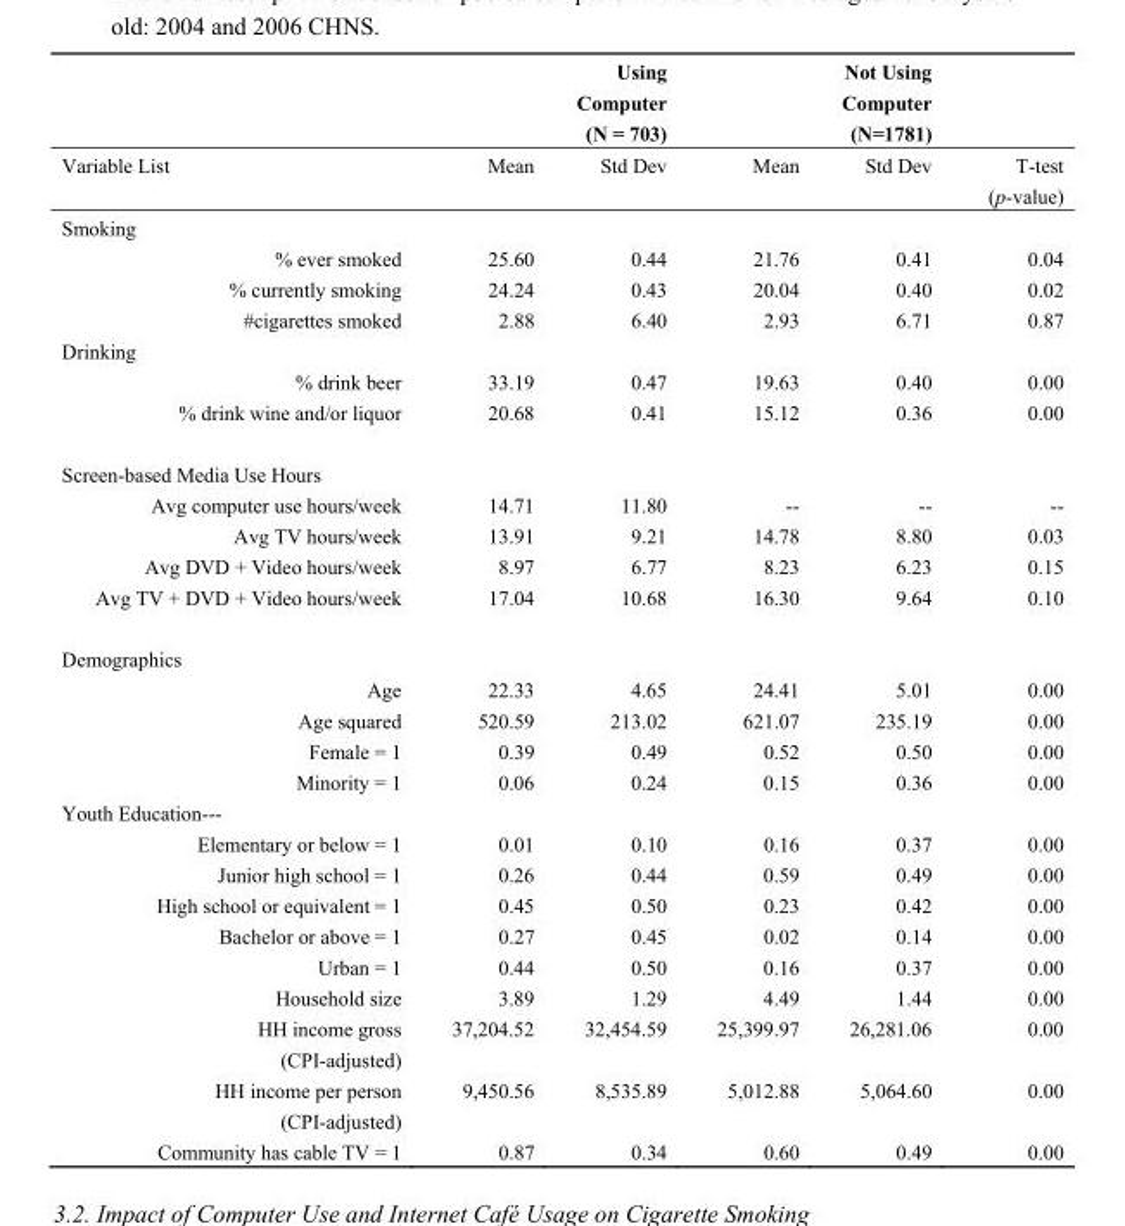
<table><thead><tr><td></td><td></td><td>Using Computer (N = 703)</td><td></td><td>Not Using Computer (N=1781)</td><td></td></tr></thead><tbody><tr><td>Variable List</td><td>Mean</td><td>Std Dev</td><td>Mean</td><td>Std Dev</td><td>T-test (p-value)</td></tr><tr><td colspan="6">Smoking</td></tr><tr><td>% ever smoked</td><td>25.60</td><td>0.44</td><td>21.76</td><td>0.41</td><td>0.04</td></tr><tr><td>% currently smoking</td><td>24.24</td><td>0.43</td><td>20.04</td><td>0.40</td><td>0.02</td></tr><tr><td>#cigarettes smoked</td><td>2.88</td><td>6.40</td><td>2.93</td><td>6.71</td><td>0.87</td></tr><tr><td colspan="6">Drinking</td></tr><tr><td>% drink beer</td><td>33.19</td><td>0.47</td><td>19.63</td><td>0.40</td><td>0.00</td></tr><tr><td>% drink wine and/or liquor</td><td>20.68</td><td>0.41</td><td>15.12</td><td>0.36</td><td>0.00</td></tr><tr><td colspan="6">Screen-based Media Use Hours</td></tr><tr><td>Avg computer use hours/week</td><td>14.71</td><td>11.80</td><td>--</td><td>--</td><td>--</td></tr><tr><td>Avg TV hours/week</td><td>13.91</td><td>9.21</td><td>14.78</td><td>8.80</td><td>0.03</td></tr><tr><td>Avg DVD + Video hours/week</td><td>8.97</td><td>6.77</td><td>8.23</td><td>6.23</td><td>0.15</td></tr><tr><td>Avg TV + DVD + Video hours/week</td><td>17.04</td><td>10.68</td><td>16.30</td><td>9.64</td><td>0.10</td></tr><tr><td colspan="6">Demographics</td></tr><tr><td>Age</td><td>22.33</td><td>4.65</td><td>24.41</td><td>5.01</td><td>0.00</td></tr><tr><td>Age squared</td><td>520.59</td><td>213.02</td><td>621.07</td><td>235.19</td><td>0.00</td></tr><tr><td>Female = 1</td><td>0.39</td><td>0.49</td><td>0.52</td><td>0.50</td><td>0.00</td></tr><tr><td>Minority = 1</td><td>0.06</td><td>0.24</td><td>0.15</td><td>0.36</td><td>0.00</td></tr><tr><td colspan="6">Youth Education---</td></tr><tr><td>Elementary or below = 1</td><td>0.01</td><td>0.10</td><td>0.16</td><td>0.37</td><td>0.00</td></tr><tr><td>Junior high school = 1</td><td>0.26</td><td>0.44</td><td>0.59</td><td>0.49</td><td>0.00</td></tr><tr><td>High school or equivalent = 1</td><td>0.45</td><td>0.50</td><td>0.23</td><td>0.42</td><td>0.00</td></tr><tr><td>Bachelor or above = 1</td><td>0.27</td><td>0.45</td><td>0.02</td><td>0.14</td><td>0.00</td></tr><tr><td>Urban = 1</td><td>0.44</td><td>0.50</td><td>0.16</td><td>0.37</td><td>0.00</td></tr><tr><td>Household size</td><td>3.89</td><td>1.29</td><td>4.49</td><td>1.44</td><td>0.00</td></tr><tr><td>HH income gross (CPI-adjusted)</td><td>37,204.52</td><td>32,454.59</td><td>25,399.97</td><td>26,281.06</td><td>0.00</td></tr><tr><td>HH income per person (CPI-adjusted)</td><td>9,450.56</td><td>8,535.89</td><td>5,012.88</td><td>5,064.60</td><td>0.00</td></tr><tr><td>Community has cable TV = 1</td><td>0.87</td><td>0.34</td><td>0.60</td><td>0.49</td><td>0.00</td></tr></tbody></table>